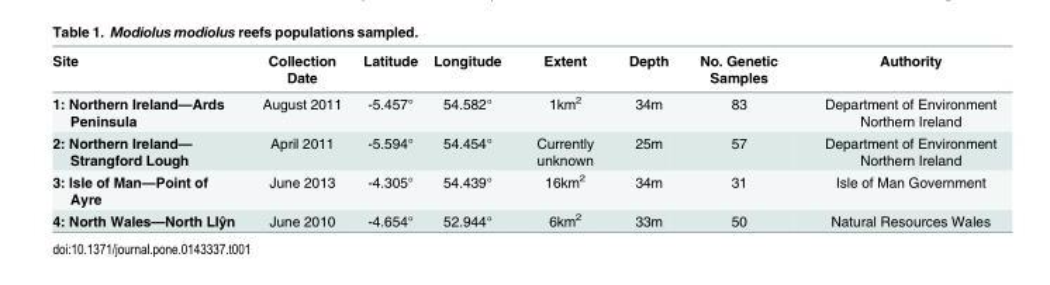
<table><thead><tr><td>Site</td><td>Collection Date</td><td>Latitude</td><td>Longitude</td><td>Extent</td><td>Depth</td><td>No. Genetic Samples</td><td>Authority</td></tr></thead><tbody><tr><td>1: Northern Ireland—Ards Peninsula</td><td>August 2011</td><td>-5.457°</td><td>54.582°</td><td>1km<sup>2</sup></td><td>34m</td><td>83</td><td>Department of Environment Northern Ireland</td></tr><tr><td>2: Northern Ireland— Strangford Lough</td><td>April 2011</td><td>-5.594°</td><td>54.454°</td><td>Currently unknown</td><td>25m</td><td>57</td><td>Department of Environment Northern Ireland</td></tr><tr><td>3: Isle of Man—Point of Ayre</td><td>June 2013</td><td>-4.305°</td><td>54.439°</td><td>16km<sup>2</sup></td><td>34m</td><td>31</td><td>Isle of Man Government</td></tr><tr><td>4: North Wales—North Llŷn</td><td>June 2010</td><td>-4.654°</td><td>52.944°</td><td>6km<sup>2</sup></td><td>33m</td><td>50</td><td>Natural Resources Wales</td></tr></tbody></table>